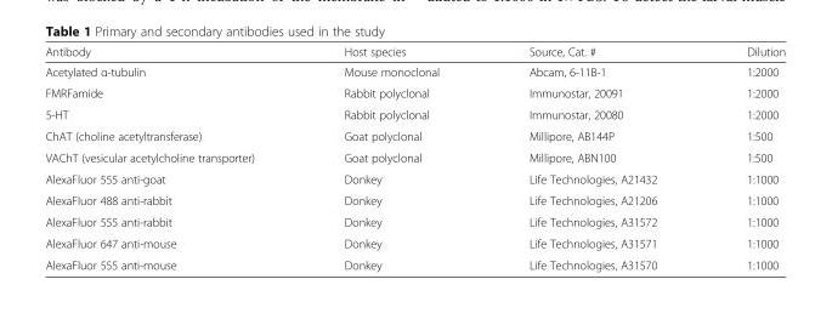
<table><thead><tr><td>Antibody</td><td>Host species</td><td>Source, Cat. #</td><td>Dilution</td></tr></thead><tbody><tr><td>Acetylated α-tubulin</td><td>Mouse monoclonal</td><td>Abcam, 6-11B-1</td><td>1:2000</td></tr><tr><td>FMRFamide</td><td>Rabbit polyclonal</td><td>Immunostar, 20091</td><td>1:2000</td></tr><tr><td>5-HT</td><td>Rabbit polyclonal</td><td>Immunostar, 20080</td><td>1:2000</td></tr><tr><td>ChAT (choline acetyltransferase)</td><td>Goat polyclonal</td><td>Millipore, AB144P</td><td>1:500</td></tr><tr><td>VAChT (vesicular acetylcholine transporter)</td><td>Goat polyclonal</td><td>Millipore, ABN100</td><td>1:500</td></tr><tr><td>AlexaFluor 555 anti-goat</td><td>Donkey</td><td>Life Technologies, A21432</td><td>1:1000</td></tr><tr><td>AlexaFluor 488 anti-rabbit</td><td>Donkey</td><td>Life Technologies, A21206</td><td>1:1000</td></tr><tr><td>AlexaFluor 555 anti-rabbit</td><td>Donkey</td><td>Life Technologies, A31572</td><td>1:1000</td></tr><tr><td>AlexaFluor 647 anti-mouse</td><td>Donkey</td><td>Life Technologies, A31571</td><td>1:1000</td></tr><tr><td>AlexaFluor 555 anti-mouse</td><td>Donkey</td><td>Life Technologies, A31570</td><td>1:1000</td></tr></tbody></table>